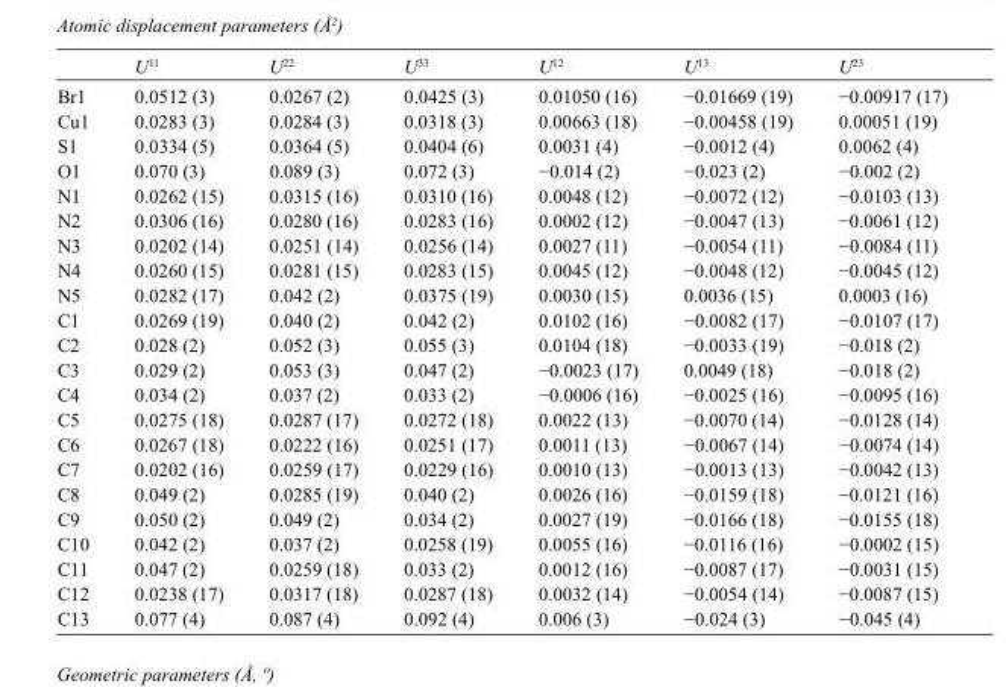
<table><thead><tr><td></td><td>U<sup>11</sup></td><td>U<sup>22</sup></td><td>U<sup>33</sup></td><td>U<sup>12</sup></td><td>U<sup>13</sup></td><td>U<sup>23</sup></td></tr></thead><tbody><tr><td>Br1</td><td>0.0512 (3)</td><td>0.0267 (2)</td><td>0.0425 (3)</td><td>0.01050 (16)</td><td>−0.01669 (19)</td><td>−0.00917 (17)</td></tr><tr><td>Cu1</td><td>0.0283 (3)</td><td>0.0284 (3)</td><td>0.0318 (3)</td><td>0.00663 (18)</td><td>−0.00458 (19)</td><td>0.00051 (19)</td></tr><tr><td>S1</td><td>0.0334 (5)</td><td>0.0364 (5)</td><td>0.0404 (6)</td><td>0.0031 (4)</td><td>−0.0012 (4)</td><td>0.0062 (4)</td></tr><tr><td>O1</td><td>0.070 (3)</td><td>0.089 (3)</td><td>0.072 (3)</td><td>−0.014 (2)</td><td>−0.023 (2)</td><td>−0.002 (2)</td></tr><tr><td>N1</td><td>0.0262 (15)</td><td>0.0315 (16)</td><td>0.0310 (16)</td><td>0.0048 (12)</td><td>−0.0072 (12)</td><td>−0.0103 (13)</td></tr><tr><td>N2</td><td>0.0306 (16)</td><td>0.0280 (16)</td><td>0.0283 (16)</td><td>0.0002 (12)</td><td>−0.0047 (13)</td><td>−0.0061 (12)</td></tr><tr><td>N3</td><td>0.0202 (14)</td><td>0.0251 (14)</td><td>0.0256 (14)</td><td>0.0027 (11)</td><td>−0.0054 (11)</td><td>−0.0084 (11)</td></tr><tr><td>N4</td><td>0.0260 (15)</td><td>0.0281 (15)</td><td>0.0283 (15)</td><td>0.0045 (12)</td><td>−0.0048 (12)</td><td>−0.0045 (12)</td></tr><tr><td>N5</td><td>0.0282 (17)</td><td>0.042 (2)</td><td>0.0375 (19)</td><td>0.0030 (15)</td><td>0.0036 (15)</td><td>0.0003 (16)</td></tr><tr><td>C1</td><td>0.0269 (19)</td><td>0.040 (2)</td><td>0.042 (2)</td><td>0.0102 (16)</td><td>−0.0082 (17)</td><td>−0.0107 (17)</td></tr><tr><td>C2</td><td>0.028 (2)</td><td>0.052 (3)</td><td>0.055 (3)</td><td>0.0104 (18)</td><td>−0.0033 (19)</td><td>−0.018 (2)</td></tr><tr><td>C3</td><td>0.029 (2)</td><td>0.053 (3)</td><td>0.047 (2)</td><td>−0.0023 (17)</td><td>0.0049 (18)</td><td>−0.018 (2)</td></tr><tr><td>C4</td><td>0.034 (2)</td><td>0.037 (2)</td><td>0.033 (2)</td><td>−0.0006 (16)</td><td>−0.0025 (16)</td><td>−0.0095 (16)</td></tr><tr><td>C5</td><td>0.0275 (18)</td><td>0.0287 (17)</td><td>0.0272 (18)</td><td>0.0022 (13)</td><td>−0.0070 (14)</td><td>−0.0128 (14)</td></tr><tr><td>C6</td><td>0.0267 (18)</td><td>0.0222 (16)</td><td>0.0251 (17)</td><td>0.0011 (13)</td><td>−0.0067 (14)</td><td>−0.0074 (14)</td></tr><tr><td>C7</td><td>0.0202 (16)</td><td>0.0259 (17)</td><td>0.0229 (16)</td><td>0.0010 (13)</td><td>−0.0013 (13)</td><td>−0.0042 (13)</td></tr><tr><td>C8</td><td>0.049 (2)</td><td>0.0285 (19)</td><td>0.040 (2)</td><td>0.0026 (16)</td><td>−0.0159 (18)</td><td>−0.0121 (16)</td></tr><tr><td>C9</td><td>0.050 (2)</td><td>0.049 (2)</td><td>0.034 (2)</td><td>0.0027 (19)</td><td>−0.0166 (18)</td><td>−0.0155 (18)</td></tr><tr><td>C10</td><td>0.042 (2)</td><td>0.037 (2)</td><td>0.0258 (19)</td><td>0.0055 (16)</td><td>−0.0116 (16)</td><td>−0.0002 (15)</td></tr><tr><td>C11</td><td>0.047 (2)</td><td>0.0259 (18)</td><td>0.033 (2)</td><td>0.0012 (16)</td><td>−0.0087 (17)</td><td>−0.0031 (15)</td></tr><tr><td>C12</td><td>0.0238 (17)</td><td>0.0317 (18)</td><td>0.0287 (18)</td><td>0.0032 (14)</td><td>−0.0054 (14)</td><td>−0.0087 (15)</td></tr><tr><td>C13</td><td>0.077 (4)</td><td>0.087 (4)</td><td>0.092 (4)</td><td>0.006 (3)</td><td>−0.024 (3)</td><td>−0.045 (4)</td></tr></tbody></table>